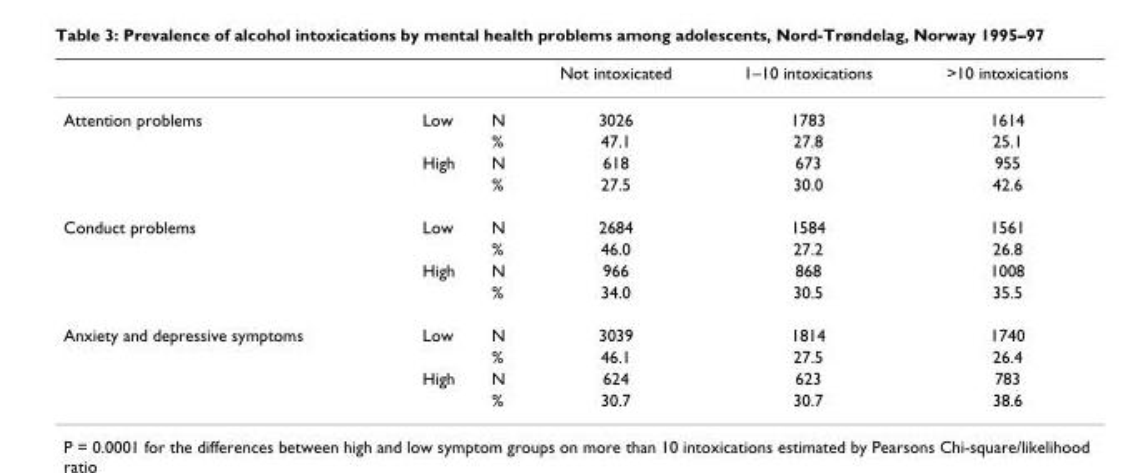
<table><thead><tr><td></td><td></td><td></td><td>Not intoxicated</td><td>1–10 intoxications</td><td>&gt;10 intoxications</td></tr></thead><tbody><tr><td rowspan="4">Attention problems</td><td>Low</td><td>N</td><td>3026</td><td>1783</td><td>1614</td></tr><tr><td></td><td>%</td><td>47.1</td><td>27.8</td><td>25.1</td></tr><tr><td>High</td><td>N</td><td>618</td><td>673</td><td>955</td></tr><tr><td></td><td>%</td><td>27.5</td><td>30.0</td><td>42.6</td></tr><tr><td rowspan="4">Conduct problems</td><td>Low</td><td>N</td><td>2684</td><td>1584</td><td>1561</td></tr><tr><td></td><td>%</td><td>46.0</td><td>27.2</td><td>26.8</td></tr><tr><td>High</td><td>N</td><td>966</td><td>868</td><td>1008</td></tr><tr><td></td><td>%</td><td>34.0</td><td>30.5</td><td>35.5</td></tr><tr><td rowspan="4">Anxiety and depressive symptoms</td><td>Low</td><td>N</td><td>3039</td><td>1814</td><td>1740</td></tr><tr><td></td><td>%</td><td>46.1</td><td>27.5</td><td>26.4</td></tr><tr><td>High</td><td>N</td><td>624</td><td>623</td><td>783</td></tr><tr><td></td><td>%</td><td>30.7</td><td>30.7</td><td>38.6</td></tr></tbody></table>